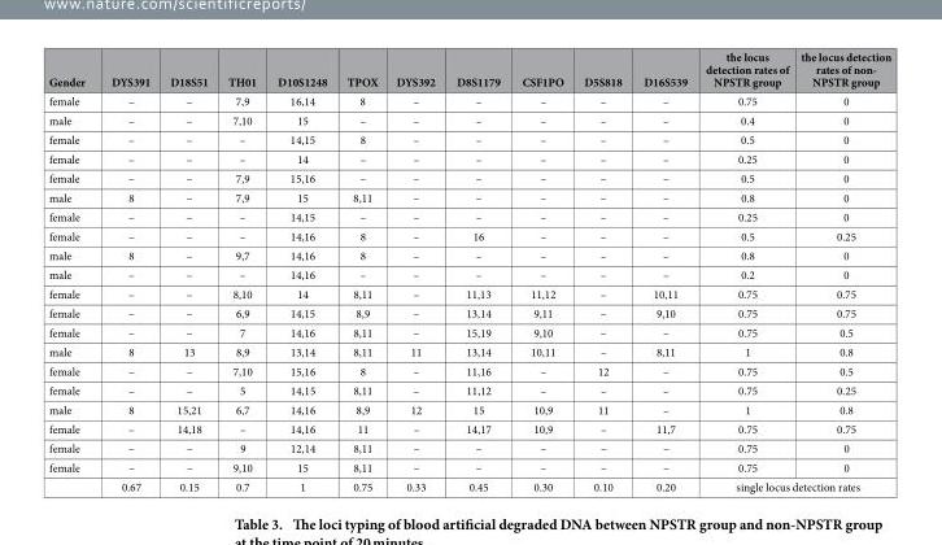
<table><thead><tr><td>Gender</td><td>DYS391</td><td>D18S51</td><td>TH01</td><td>D10S1248</td><td>TPOX</td><td>DYS392</td><td>D8S1179</td><td>CSF1PO</td><td>D5S818</td><td>D16S539</td><td>the locus detection rates of NPSTR group</td><td>the locus detection rates of non- NPSTR group</td></tr></thead><tbody><tr><td>female</td><td>–</td><td>–</td><td>7,9</td><td>16,14</td><td>8</td><td>–</td><td>–</td><td>–</td><td>–</td><td>–</td><td>0.75</td><td>0</td></tr><tr><td>male</td><td>–</td><td>–</td><td>7,10</td><td>15</td><td>–</td><td>–</td><td>–</td><td>–</td><td>–</td><td>–</td><td>0.4</td><td>0</td></tr><tr><td>female</td><td>–</td><td>–</td><td>–</td><td>14,15</td><td>8</td><td>–</td><td>–</td><td>–</td><td>–</td><td>–</td><td>0.5</td><td>0</td></tr><tr><td>female</td><td>–</td><td>–</td><td>–</td><td>14</td><td>–</td><td>–</td><td>–</td><td>–</td><td>–</td><td>–</td><td>0.25</td><td>0</td></tr><tr><td>female</td><td>–</td><td>–</td><td>7,9</td><td>15,16</td><td>–</td><td>–</td><td>–</td><td>–</td><td>–</td><td>–</td><td>0.5</td><td>0</td></tr><tr><td>male</td><td>8</td><td>–</td><td>7,9</td><td>15</td><td>8,11</td><td>–</td><td>–</td><td>–</td><td>–</td><td>–</td><td>0.8</td><td>0</td></tr><tr><td>female</td><td>–</td><td>–</td><td>–</td><td>14,15</td><td>–</td><td>–</td><td>–</td><td>–</td><td>–</td><td>–</td><td>0.25</td><td>0</td></tr><tr><td>female</td><td>–</td><td>–</td><td>–</td><td>14,16</td><td>8</td><td>–</td><td>16</td><td>–</td><td>–</td><td>–</td><td>0.5</td><td>0.25</td></tr><tr><td>male</td><td>8</td><td>–</td><td>9,7</td><td>14,16</td><td>8</td><td>–</td><td>–</td><td>–</td><td>–</td><td>–</td><td>0.8</td><td>0</td></tr><tr><td>male</td><td>–</td><td>–</td><td>–</td><td>14,16</td><td>–</td><td>–</td><td>–</td><td>–</td><td>–</td><td>–</td><td>0.2</td><td>0</td></tr><tr><td>female</td><td>–</td><td>–</td><td>8,10</td><td>14</td><td>8,11</td><td>–</td><td>11,13</td><td>11,12</td><td>–</td><td>10,11</td><td>0.75</td><td>0.75</td></tr><tr><td>female</td><td>–</td><td>–</td><td>6,9</td><td>14,15</td><td>8,9</td><td>–</td><td>13,14</td><td>9,11</td><td>–</td><td>9,10</td><td>0.75</td><td>0.75</td></tr><tr><td>female</td><td>–</td><td>–</td><td>7</td><td>14,16</td><td>8,11</td><td>–</td><td>15,19</td><td>9,10</td><td>–</td><td>–</td><td>0.75</td><td>0.5</td></tr><tr><td>male</td><td>8</td><td>13</td><td>8,9</td><td>13,14</td><td>8,11</td><td>11</td><td>13,14</td><td>10,11</td><td>–</td><td>8,11</td><td>1</td><td>0.8</td></tr><tr><td>female</td><td>–</td><td>–</td><td>7,10</td><td>15,16</td><td>8</td><td>–</td><td>11,16</td><td>–</td><td>12</td><td>–</td><td>0.75</td><td>0.5</td></tr><tr><td>female</td><td>–</td><td>–</td><td>5</td><td>14,15</td><td>8,11</td><td>–</td><td>11,12</td><td>–</td><td>–</td><td>–</td><td>0.75</td><td>0.25</td></tr><tr><td>male</td><td>8</td><td>15,21</td><td>6,7</td><td>14,16</td><td>8,9</td><td>12</td><td>15</td><td>10,9</td><td>11</td><td>–</td><td>1</td><td>0.8</td></tr><tr><td>female</td><td>–</td><td>14,18</td><td>–</td><td>14,16</td><td>11</td><td>–</td><td>14,17</td><td>10,9</td><td>–</td><td>11,7</td><td>0.75</td><td>0.75</td></tr><tr><td>female</td><td>–</td><td>–</td><td>9</td><td>12,14</td><td>8,11</td><td>–</td><td>–</td><td>–</td><td>–</td><td>–</td><td>0.75</td><td>0</td></tr><tr><td rowspan="2">female</td><td>–</td><td>–</td><td>9,10</td><td>15</td><td>8,11</td><td>–</td><td>–</td><td>–</td><td>–</td><td>–</td><td>0.75</td><td>0</td></tr><tr><td>0.67</td><td>0.15</td><td>0.7</td><td>1</td><td>0.75</td><td>0.33</td><td>0.45</td><td>0.30</td><td>0.10</td><td>0.20</td><td colspan="2">single locus detection rates</td></tr></tbody></table>